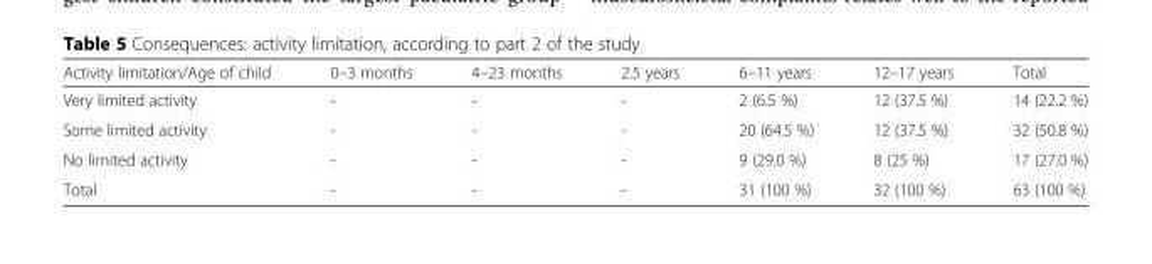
<table><thead><tr><td>Activity limitation/Age of child</td><td>0–3 months</td><td>4–23 months</td><td>2.5 years</td><td>6–11 years</td><td>12–17 years</td><td>Total</td></tr></thead><tbody><tr><td>Very limited activity</td><td>-</td><td>-</td><td>-</td><td>2 (6.5 %)</td><td>12 (37.5 %)</td><td>14 (22.2 %)</td></tr><tr><td>Some limited activity</td><td>-</td><td>-</td><td>-</td><td>20 (64.5 %)</td><td>12 (37.5 %)</td><td>32 (50.8 %)</td></tr><tr><td>No limited activity</td><td>-</td><td>-</td><td>-</td><td>9 (29.0 %)</td><td>8 (25 %)</td><td>17 (27.0 %)</td></tr><tr><td>Total</td><td>-</td><td>-</td><td>-</td><td>31 (100 %)</td><td>32 (100 %)</td><td>63 (100 %)</td></tr></tbody></table>